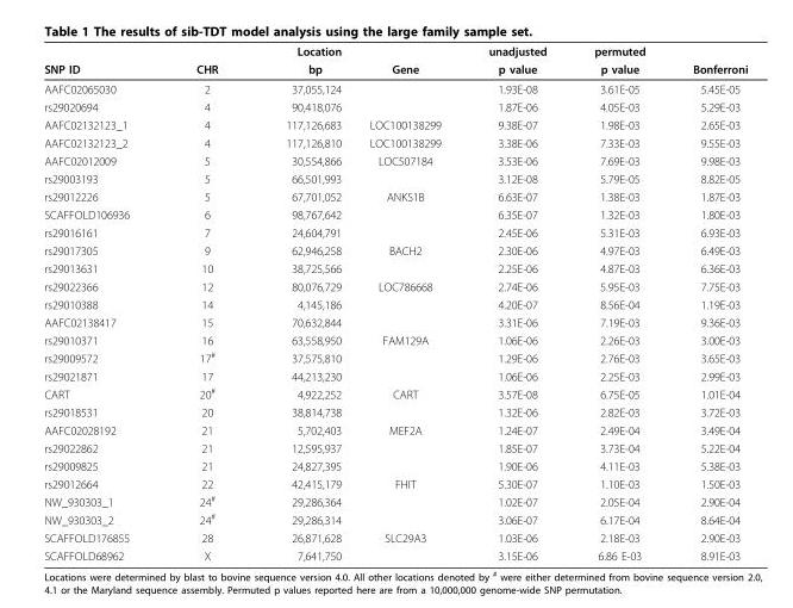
<table><thead><tr><td rowspan="2">SNP ID</td><td rowspan="2">CHR</td><td rowspan="2">Location bp</td><td rowspan="2">Gene</td><td rowspan="2">unadjusted p value</td><td rowspan="2">permuted p value</td><td rowspan="2">Bonferroni</td></tr><tr></tr></thead><tbody><tr><td>AAFC02065030</td><td>2</td><td>37,055,124</td><td></td><td>1.93E-08</td><td>3.61E-05</td><td>5.45E-05</td></tr><tr><td>rs29020694</td><td>4</td><td>90,418,076</td><td></td><td>1.87E-06</td><td>4.05E-03</td><td>5.29E-03</td></tr><tr><td>AAFC02132123_1</td><td>4</td><td>117,126,683</td><td>LOC100138299</td><td>9.38E-07</td><td>1.98E-03</td><td>2.65E-03</td></tr><tr><td>AAFC02132123_2</td><td>4</td><td>117,126,810</td><td>LOC100138299</td><td>3.38E-06</td><td>7.33E-03</td><td>9.55E-03</td></tr><tr><td>AAFC02012009</td><td>5</td><td>30,554,866</td><td>LOC507184</td><td>3.53E-06</td><td>7.69E-03</td><td>9.98E-03</td></tr><tr><td>rs29003193</td><td>5</td><td>66,501,993</td><td></td><td>3.12E-08</td><td>5.79E-05</td><td>8.82E-05</td></tr><tr><td>rs29012226</td><td>5</td><td>67,701,052</td><td>ANKS1B</td><td>6.63E-07</td><td>1.38E-03</td><td>1.87E-03</td></tr><tr><td>SCAFFOLD106936</td><td>6</td><td>98,767,642</td><td></td><td>6.35E-07</td><td>1.32E-03</td><td>1.80E-03</td></tr><tr><td>rs29016161</td><td>7</td><td>24,604,791</td><td></td><td>2.45E-06</td><td>5.31E-03</td><td>6.93E-03</td></tr><tr><td>rs29017305</td><td>9</td><td>62,946,258</td><td>BACH2</td><td>2.30E-06</td><td>4.97E-03</td><td>6.49E-03</td></tr><tr><td>rs29013631</td><td>10</td><td>38,725,566</td><td></td><td>2.25E-06</td><td>4.87E-03</td><td>6.36E-03</td></tr><tr><td>rs29022366</td><td>12</td><td>80,076,729</td><td>LOC786668</td><td>2.74E-06</td><td>5.95E-03</td><td>7.75E-03</td></tr><tr><td>rs29010388</td><td>14</td><td>4,145,186</td><td></td><td>4.20E-07</td><td>8.56E-04</td><td>1.19E-03</td></tr><tr><td>AAFC02138417</td><td>15</td><td>70,632,844</td><td></td><td>3.31E-06</td><td>7.19E-03</td><td>9.36E-03</td></tr><tr><td>rs29010371</td><td>16</td><td>63,558,950</td><td>FAM129A</td><td>1.06E-06</td><td>2.26E-03</td><td>3.00E-03</td></tr><tr><td>rs29009572</td><td>17<sup>#</sup></td><td>37,575,810</td><td></td><td>1.29E-06</td><td>2.76E-03</td><td>3.65E-03</td></tr><tr><td>rs29021871</td><td>17</td><td>44,213,230</td><td></td><td>1.06E-06</td><td>2.25E-03</td><td>2.99E-03</td></tr><tr><td>CART</td><td>20<sup>#</sup></td><td>4,922,252</td><td>CART</td><td>3.57E-08</td><td>6.75E-05</td><td>1.01E-04</td></tr><tr><td>rs29018531</td><td>20</td><td>38,814,738</td><td></td><td>1.32E-06</td><td>2.82E-03</td><td>3.72E-03</td></tr><tr><td>AAFC02028192</td><td>21</td><td>5,702,403</td><td>MEF2A</td><td>1.24E-07</td><td>2.49E-04</td><td>3.49E-04</td></tr><tr><td>rs29022862</td><td>21</td><td>12,595,937</td><td></td><td>1.85E-07</td><td>3.73E-04</td><td>5.22E-04</td></tr><tr><td>rs29009825</td><td>21</td><td>24,827,395</td><td></td><td>1.90E-06</td><td>4.11E-03</td><td>5.38E-03</td></tr><tr><td>rs29012664</td><td>22</td><td>42,415,179</td><td>FHIT</td><td>5.30E-07</td><td>1.10E-03</td><td>1.50E-03</td></tr><tr><td>NW_930303_1</td><td>24<sup>#</sup></td><td>29,286,364</td><td></td><td>1.02E-07</td><td>2.05E-04</td><td>2.90E-04</td></tr><tr><td>NW_930303_2</td><td>24<sup>#</sup></td><td>29,286,314</td><td></td><td>3.06E-07</td><td>6.17E-04</td><td>8.64E-04</td></tr><tr><td>SCAFFOLD176855</td><td>28</td><td>26,871,628</td><td>SLC29A3</td><td>1.03E-06</td><td>2.18E-03</td><td>2.90E-03</td></tr><tr><td>SCAFFOLD68962</td><td>X</td><td>7,641,750</td><td></td><td>3.15E-06</td><td>6.86 E-03</td><td>8.91E-03</td></tr></tbody></table>